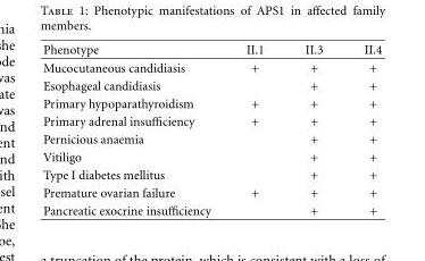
<table><thead><tr><td>Phenotype</td><td>II.1</td><td>II.3</td><td>II.4</td></tr></thead><tbody><tr><td>Mucocutaneous candidiasis</td><td>+</td><td>+</td><td>+</td></tr><tr><td>Esophageal candidiasis</td><td></td><td>+</td><td>+</td></tr><tr><td>Primary hypoparathyroidism</td><td>+</td><td>+</td><td>+</td></tr><tr><td>Primary adrenal insufficiency</td><td>+</td><td>+</td><td>+</td></tr><tr><td>Pernicious anaemia</td><td></td><td>+</td><td>+</td></tr><tr><td>Vitiligo</td><td></td><td>+</td><td>+</td></tr><tr><td>Type I diabetes mellitus</td><td></td><td>+</td><td>+</td></tr><tr><td>Premature ovarian failure</td><td>+</td><td>+</td><td>+</td></tr><tr><td>Pancreatic exocrine insufficiency</td><td></td><td>+</td><td>+</td></tr></tbody></table>